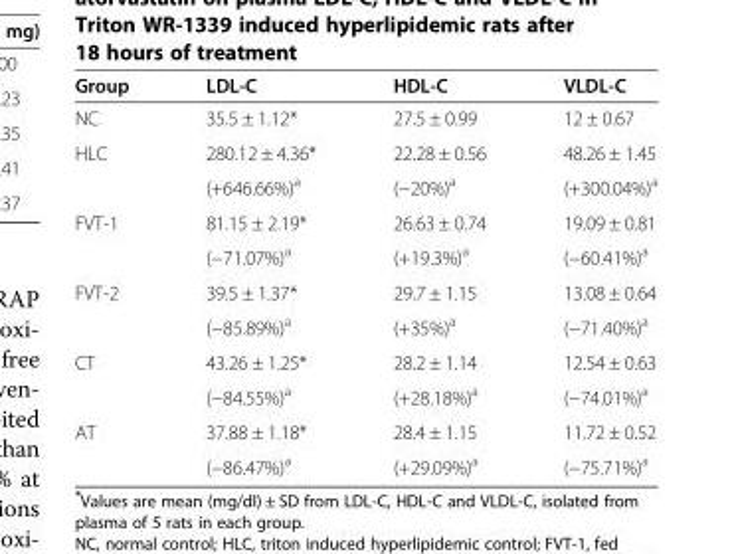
<table><thead><tr><td>Group</td><td>LDL-C</td><td>HDL-C</td><td>VLDL-C</td></tr></thead><tbody><tr><td>NC</td><td>35.5 ± 1.12*</td><td>27.5 ± 0.99</td><td>12 ± 0.67</td></tr><tr><td rowspan="2">HLC</td><td>280.12 ± 4.36*</td><td>22.28 ± 0.56</td><td>48.26 ± 1.45</td></tr><tr><td>(+646.66%)<sup>a</sup></td><td>(−20%)<sup>a</sup></td><td>(+300.04%)<sup>a</sup></td></tr><tr><td rowspan="2">FVT-1</td><td>81.15 ± 2.19*</td><td>26.63 ± 0.74</td><td>19.09 ± 0.81</td></tr><tr><td>(−71.07%)<sup>a</sup></td><td>(+19.3%)<sup>a</sup></td><td>(−60.41%)<sup>a</sup></td></tr><tr><td rowspan="2">FVT-2</td><td>39.5 ± 1.37*</td><td>29.7 ± 1.15</td><td>13.08 ± 0.64</td></tr><tr><td>(−85.89%)<sup>a</sup></td><td>(+35%)<sup>a</sup></td><td>(−71.40%)<sup>a</sup></td></tr><tr><td rowspan="2">CT</td><td>43.26 ± 1.25*</td><td>28.2 ± 1.14</td><td>12.54 ± 0.63</td></tr><tr><td>(−84.55%)<sup>a</sup></td><td>(+28.18%)<sup>a</sup></td><td>(−74.01%)<sup>a</sup></td></tr><tr><td rowspan="2">AT</td><td>37.88 ± 1.18*</td><td>28.4 ± 1.15</td><td>11.72 ± 0.52</td></tr><tr><td>(−86.47%)<sup>a</sup></td><td>(+29.09%)<sup>a</sup></td><td>(−75.71%)<sup>a</sup></td></tr></tbody></table>